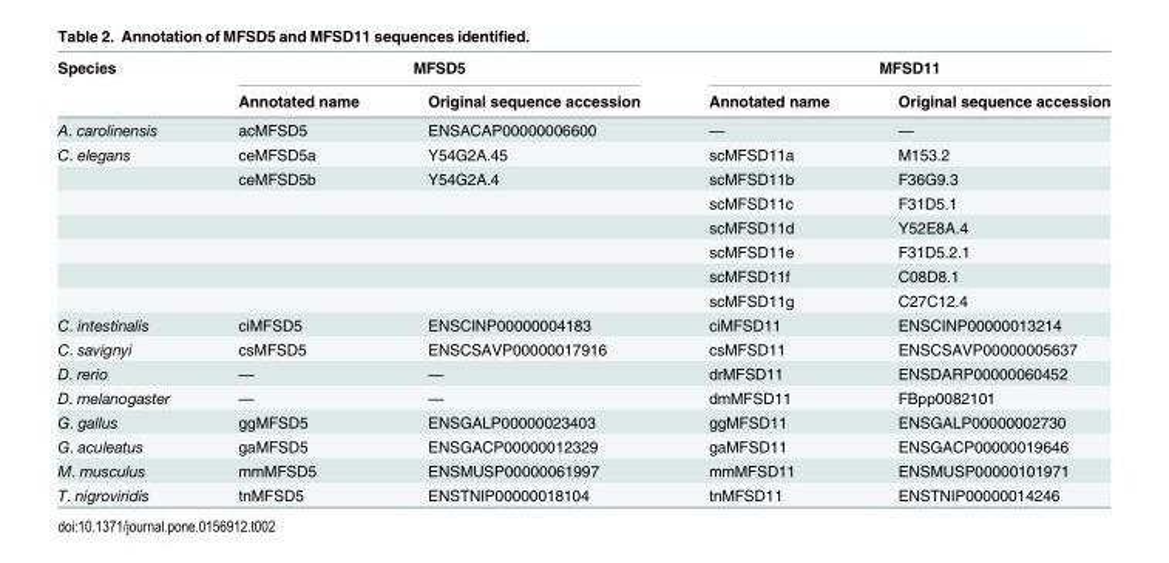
<table><thead><tr><td rowspan="2">Species</td><td colspan="2">MFSD5</td><td colspan="2">MFSD11</td></tr><tr><td>Annotated name</td><td>Original sequence accession</td><td>Annotated name</td><td>Original sequence accession</td></tr></thead><tbody><tr><td>A. carolinensis</td><td>acMFSD5</td><td>ENSACAP00000006600</td><td>—</td><td>—</td></tr><tr><td rowspan="7">C. elegans</td><td>ceMFSD5a</td><td>Y54G2A.45</td><td>scMFSD11a</td><td>M153.2</td></tr><tr><td>ceMFSD5b</td><td>Y54G2A.4</td><td>scMFSD11b</td><td>F36G9.3</td></tr><tr><td></td><td></td><td>scMFSD11c</td><td>F31D5.1</td></tr><tr><td></td><td></td><td>scMFSD11d</td><td>Y52E8A.4</td></tr><tr><td></td><td></td><td>scMFSD11e</td><td>F31D5.2.1</td></tr><tr><td></td><td></td><td>scMFSD11f</td><td>C08D8.1</td></tr><tr><td></td><td></td><td>scMFSD11g</td><td>C27C12.4</td></tr><tr><td>C. intestinalis</td><td>ciMFSD5</td><td>ENSCINP00000004183</td><td>ciMFSD11</td><td>ENSCINP00000013214</td></tr><tr><td>C. savignyi</td><td>csMFSD5</td><td>ENSCSAVP00000017916</td><td>csMFSD11</td><td>ENSCSAVP00000005637</td></tr><tr><td>D. rerio</td><td>—</td><td>—</td><td>drMFSD11</td><td>ENSDARP00000060452</td></tr><tr><td>D. melanogaster</td><td>—</td><td>—</td><td>dmMFSD11</td><td>FBpp0082101</td></tr><tr><td>G. gallus</td><td>ggMFSD5</td><td>ENSGALP00000023403</td><td>ggMFSD11</td><td>ENSGALP00000002730</td></tr><tr><td>G. aculeatus</td><td>gaMFSD5</td><td>ENSGACP00000012329</td><td>gaMFSD11</td><td>ENSGACP00000019646</td></tr><tr><td>M. musculus</td><td>mmMFSD5</td><td>ENSMUSP00000061997</td><td>mmMFSD11</td><td>ENSMUSP00000101971</td></tr><tr><td>T. nigroviridis</td><td>tnMFSD5</td><td>ENSTNIP00000018104</td><td>tnMFSD11</td><td>ENSTNIP00000014246</td></tr></tbody></table>